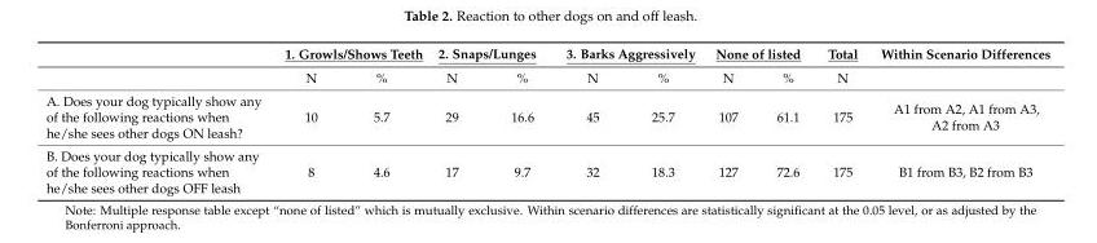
<table><thead><tr><td rowspan="2"></td><td colspan="2">1. Growls/Shows Teeth</td><td colspan="2">2. Snaps/Lunges</td><td colspan="2">3. Barks Aggressively</td><td colspan="2">None of listed</td><td rowspan="2">Total N</td><td rowspan="2">Within Scenario Differences</td></tr><tr><td>N</td><td>%</td><td>N</td><td>%</td><td>N</td><td>%</td><td>N</td><td>%</td></tr></thead><tbody><tr><td>A. Does your dog typically show any of the following reactions when he/she sees other dogs ON leash?</td><td>10</td><td>5.7</td><td>29</td><td>16.6</td><td>45</td><td>25.7</td><td>107</td><td>61.1</td><td>175</td><td>A1 from A2, A1 from A3, A2 from A3</td></tr><tr><td>B. Does your dog typically show any of the following reactions when he/she sees other dogs OFF leash</td><td>8</td><td>4.6</td><td>17</td><td>9.7</td><td>32</td><td>18.3</td><td>127</td><td>72.6</td><td>175</td><td>B1 from B3, B2 from B3</td></tr></tbody></table>